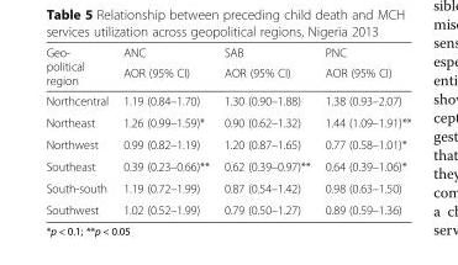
<table><thead><tr><td rowspan="2">Geo- political region</td><td rowspan="2">ANC AOR (95% CI)</td><td rowspan="2">SAB AOR (95% CI)</td><td rowspan="2">PNC AOR (95% CI)</td></tr><tr></tr></thead><tbody><tr><td>Northcentral</td><td>1.19 (0.84–1.70)</td><td>1.30 (0.90–1.88)</td><td>1.38 (0.93–2.07)</td></tr><tr><td>Northeast</td><td>1.26 (0.99–1.59)*</td><td>0.90 (0.62–1.32)</td><td>1.44 (1.09–1.91)**</td></tr><tr><td>Northwest</td><td>0.99 (0.82–1.19)</td><td>1.20 (0.87–1.65)</td><td>0.77 (0.58–1.01)*</td></tr><tr><td>Southeast</td><td>0.39 (0.23–0.66)**</td><td>0.62 (0.39–0.97)**</td><td>0.64 (0.39–1.06)*</td></tr><tr><td>South-south</td><td>1.19 (0.72–1.99)</td><td>0.87 (0.54–1.42)</td><td>0.98 (0.63–1.50)</td></tr><tr><td>Southwest</td><td>1.02 (0.52–1.99)</td><td>0.79 (0.50–1.27)</td><td>0.89 (0.59–1.36)</td></tr></tbody></table>